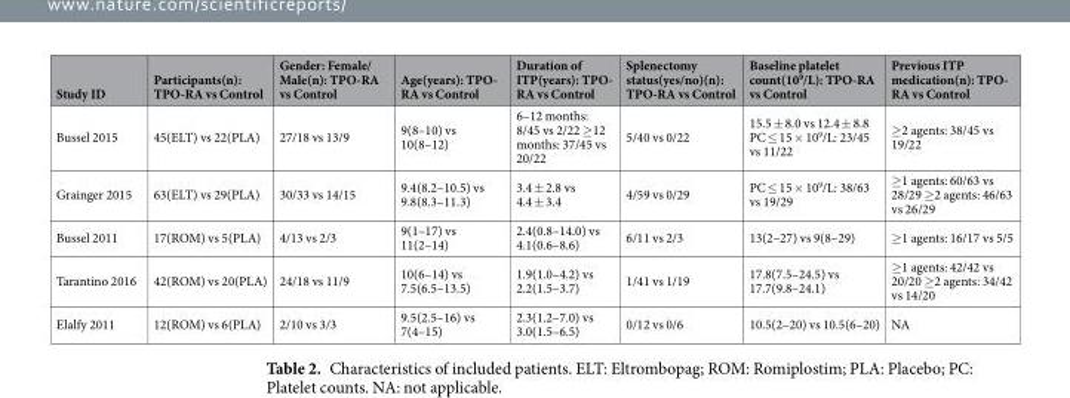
<table><thead><tr><td>Study ID</td><td>Participants(n): TPO-RA vs Control</td><td>Gender: Female/ Male(n): TPO-RA vs Control</td><td>Age(years): TPO- RA vs Control</td><td>Duration of ITP(years): TPO- RA vs Control</td><td>Splenectomy status(yes/no)(n): TPO-RA vs Control</td><td>Baseline platelet count(10<sup>9</sup>/L): TPO-RA vs Control</td><td>Previous ITP medication(n): TPO- RA vs Control</td></tr></thead><tbody><tr><td>Bussel 2015</td><td>45(ELT) vs 22(PLA)</td><td>27/18 vs 13/9</td><td>9(8–10) vs 10(8–12)</td><td>6–12 months: 8/45 vs 2/22 ≥12 months: 37/45 vs 20/22</td><td>5/40 vs 0/22</td><td>15.5 ± 8.0 vs 12.4 ± 8.8 PC ≤ 15 × 10<sup>9</sup>/L: 23/45 vs 11/22</td><td>≥2 agents: 38/45 vs 19/22</td></tr><tr><td>Grainger 2015</td><td>63(ELT) vs 29(PLA)</td><td>30/33 vs 14/15</td><td>9.4(8.2–10.5) vs 9.8(8.3–11.3)</td><td>3.4 ± 2.8 vs 4.4 ± 3.4</td><td>4/59 vs 0/29</td><td>PC ≤ 15 × 10<sup>9</sup>/L: 38/63 vs 19/29</td><td>≥1 agents: 60/63 vs 28/29 ≥2 agents: 46/63 vs 26/29</td></tr><tr><td>Bussel 2011</td><td>17(ROM) vs 5(PLA)</td><td>4/13 vs 2/3</td><td>9(1–17) vs 11(2–14)</td><td>2.4(0.8–14.0) vs 4.1(0.6–8.6)</td><td>6/11 vs 2/3</td><td>13(2–27) vs 9(8–29)</td><td>≥1 agents: 16/17 vs 5/5</td></tr><tr><td>Tarantino 2016</td><td>42(ROM) vs 20(PLA)</td><td>24/18 vs 11/9</td><td>10(6–14) vs 7.5(6.5–13.5)</td><td>1.9(1.0–4.2) vs 2.2(1.5–3.7)</td><td>1/41 vs 1/19</td><td>17.8(7.5–24.5) vs 17.7(9.8–24.1)</td><td>≥1 agents: 42/42 vs 20/20 ≥2 agents: 34/42 vs 14/20</td></tr><tr><td>Elalfy 2011</td><td>12(ROM) vs 6(PLA)</td><td>2/10 vs 3/3</td><td>9.5(2.5–16) vs 7(4–15)</td><td>2.3(1.2–7.0) vs 3.0(1.5–6.5)</td><td>0/12 vs 0/6</td><td>10.5(2–20) vs 10.5(6–20)</td><td>NA</td></tr></tbody></table>